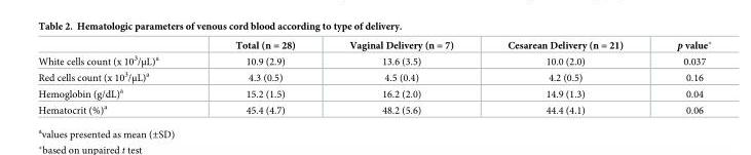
<table><thead><tr><td></td><td>Total (n = 28)</td><td>Vaginal Delivery (n = 7)</td><td>Cesarean Delivery (n = 21)</td><td>p value*</td></tr></thead><tbody><tr><td>White cells count (x 10<sup>3</sup>/μL)<sup>a</sup></td><td>10.9 (2.9)</td><td>13.6 (3.5)</td><td>10.0 (2.0)</td><td>0.037</td></tr><tr><td>Red cells count (x 10<sup>3</sup>/μL)<sup>a</sup></td><td>4.3 (0.5)</td><td>4.5 (0.4)</td><td>4.2 (0.5)</td><td>0.16</td></tr><tr><td>Hemoglobin (g/dL)<sup>a</sup></td><td>15.2 (1.5)</td><td>16.2 (2.0)</td><td>14.9 (1.3)</td><td>0.04</td></tr><tr><td>Hematocrit (%)<sup>a</sup></td><td>45.4 (4.7)</td><td>48.2 (5.6)</td><td>44.4 (4.1)</td><td>0.06</td></tr></tbody></table>